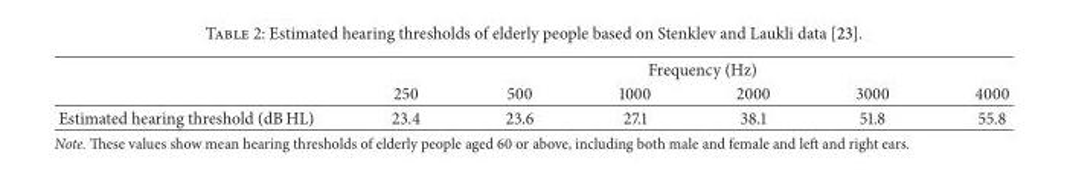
<table><thead><tr><td rowspan="2"></td><td colspan="6">Frequency (Hz)</td></tr><tr><td>250</td><td>500</td><td>1000</td><td>2000</td><td>3000</td><td>4000</td></tr></thead><tbody><tr><td>Estimated hearing threshold (dB HL)</td><td>23.4</td><td>23.6</td><td>27.1</td><td>38.1</td><td>51.8</td><td>55.8</td></tr></tbody></table>